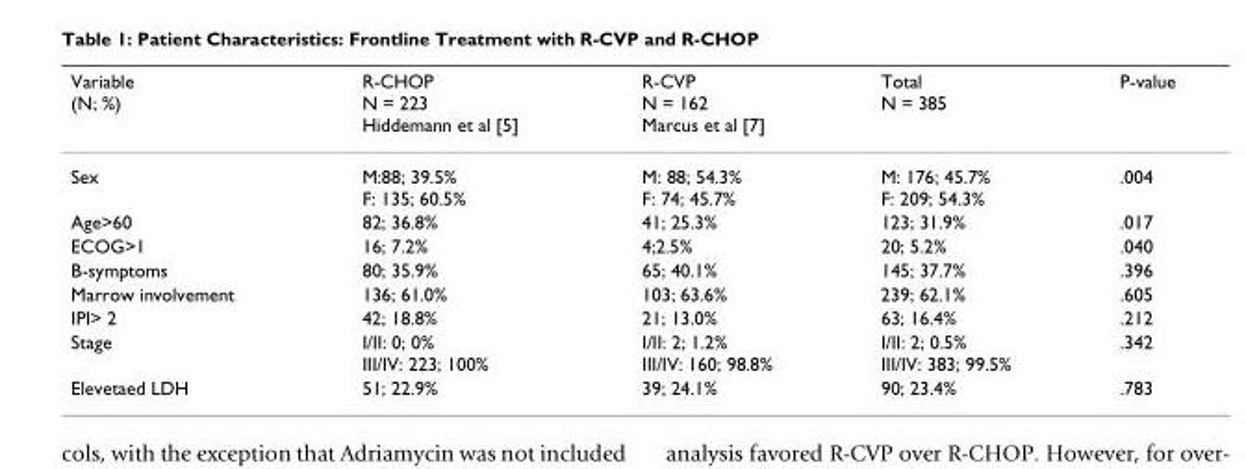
<table><thead><tr><td>Variable (N; %)</td><td>R-CHOP N = 223 Hiddemann et al [5]</td><td>R-CVP N = 162 Marcus et al [7]</td><td>Total N = 385</td><td>P-value</td></tr></thead><tbody><tr><td>Sex</td><td>M:88; 39.5% F: 135; 60.5%</td><td>M: 88; 54.3% F: 74; 45.7%</td><td>M: 176; 45.7% F: 209; 54.3%</td><td>.004</td></tr><tr><td>Age&gt;60</td><td>82; 36.8%</td><td>41; 25.3%</td><td>123; 31.9%</td><td>.017</td></tr><tr><td>ECOG&gt;1</td><td>16; 7.2%</td><td>4;2.5%</td><td>20; 5.2%</td><td>.040</td></tr><tr><td>B-symptoms</td><td>80; 35.9%</td><td>65; 40.1%</td><td>145; 37.7%</td><td>.396</td></tr><tr><td>Marrow involvement</td><td>136; 61.0%</td><td>103; 63.6%</td><td>239; 62.1%</td><td>.605</td></tr><tr><td>IPI&gt; 2</td><td>42; 18.8%</td><td>21; 13.0%</td><td>63; 16.4%</td><td>.212</td></tr><tr><td>Stage</td><td>I/II: 0; 0% III/IV: 223; 100%</td><td>I/II: 2; 1.2% III/IV: 160; 98.8%</td><td>I/II: 2; 0.5% III/IV: 383; 99.5%</td><td>.342</td></tr><tr><td>Elevetaed LDH</td><td>51; 22.9%</td><td>39; 24.1%</td><td>90; 23.4%</td><td>.783</td></tr></tbody></table>